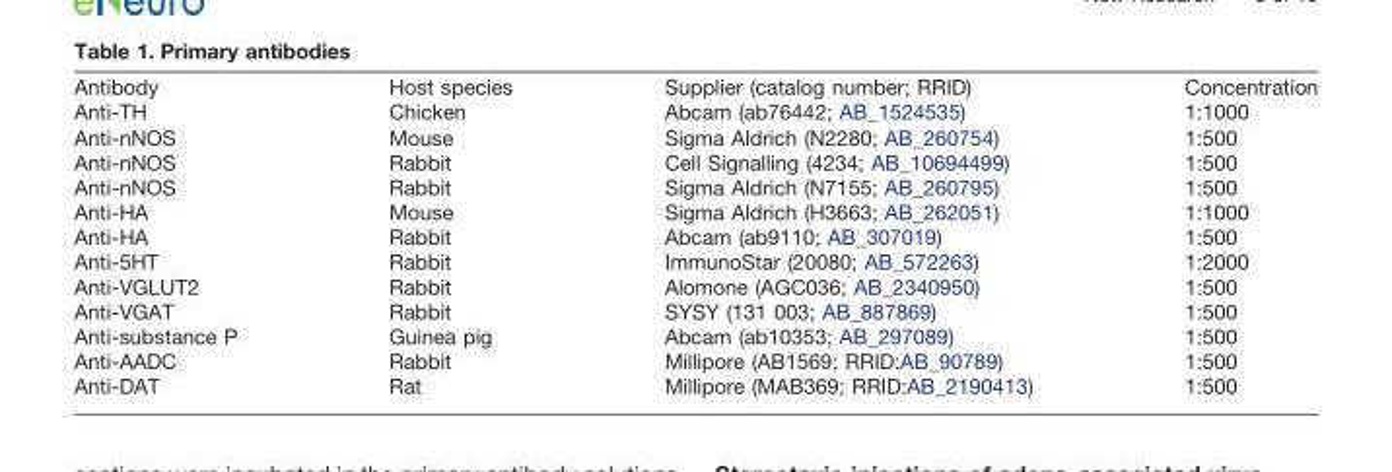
<table><thead><tr><td>Antibody</td><td>Host species</td><td>Supplier (catalog number; RRID)</td><td>Concentration</td></tr></thead><tbody><tr><td>Anti-TH</td><td>Chicken</td><td>Abcam (ab76442; AB_1524535)</td><td>1:1000</td></tr><tr><td>Anti-nNOS</td><td>Mouse</td><td>Sigma Aldrich (N2280; AB_260754)</td><td>1:500</td></tr><tr><td>Anti-nNOS</td><td>Rabbit</td><td>Cell Signalling (4234; AB_10694499)</td><td>1:500</td></tr><tr><td>Anti-nNOS</td><td>Rabbit</td><td>Sigma Aldrich (N7155; AB_260795)</td><td>1:500</td></tr><tr><td>Anti-HA</td><td>Mouse</td><td>Sigma Aldrich (H3663; AB_262051)</td><td>1:1000</td></tr><tr><td>Anti-HA</td><td>Rabbit</td><td>Abcam (ab9110; AB_307019)</td><td>1:500</td></tr><tr><td>Anti-5HT</td><td>Rabbit</td><td>ImmunoStar (20080; AB_572263)</td><td>1:2000</td></tr><tr><td>Anti-VGLUT2</td><td>Rabbit</td><td>Alomone (AGC036; AB_2340950)</td><td>1:500</td></tr><tr><td>Anti-VGAT</td><td>Rabbit</td><td>SYSY (131 003; AB_887869)</td><td>1:500</td></tr><tr><td>Anti-substance P</td><td>Guinea pig</td><td>Abcam (ab10353; AB_297089)</td><td>1:500</td></tr><tr><td>Anti-AADC</td><td>Rabbit</td><td>Millipore (AB1569; RRID:AB_90789)</td><td>1:500</td></tr><tr><td>Anti-DAT</td><td>Rat</td><td>Millipore (MAB369; RRID:AB_2190413)</td><td>1:500</td></tr></tbody></table>